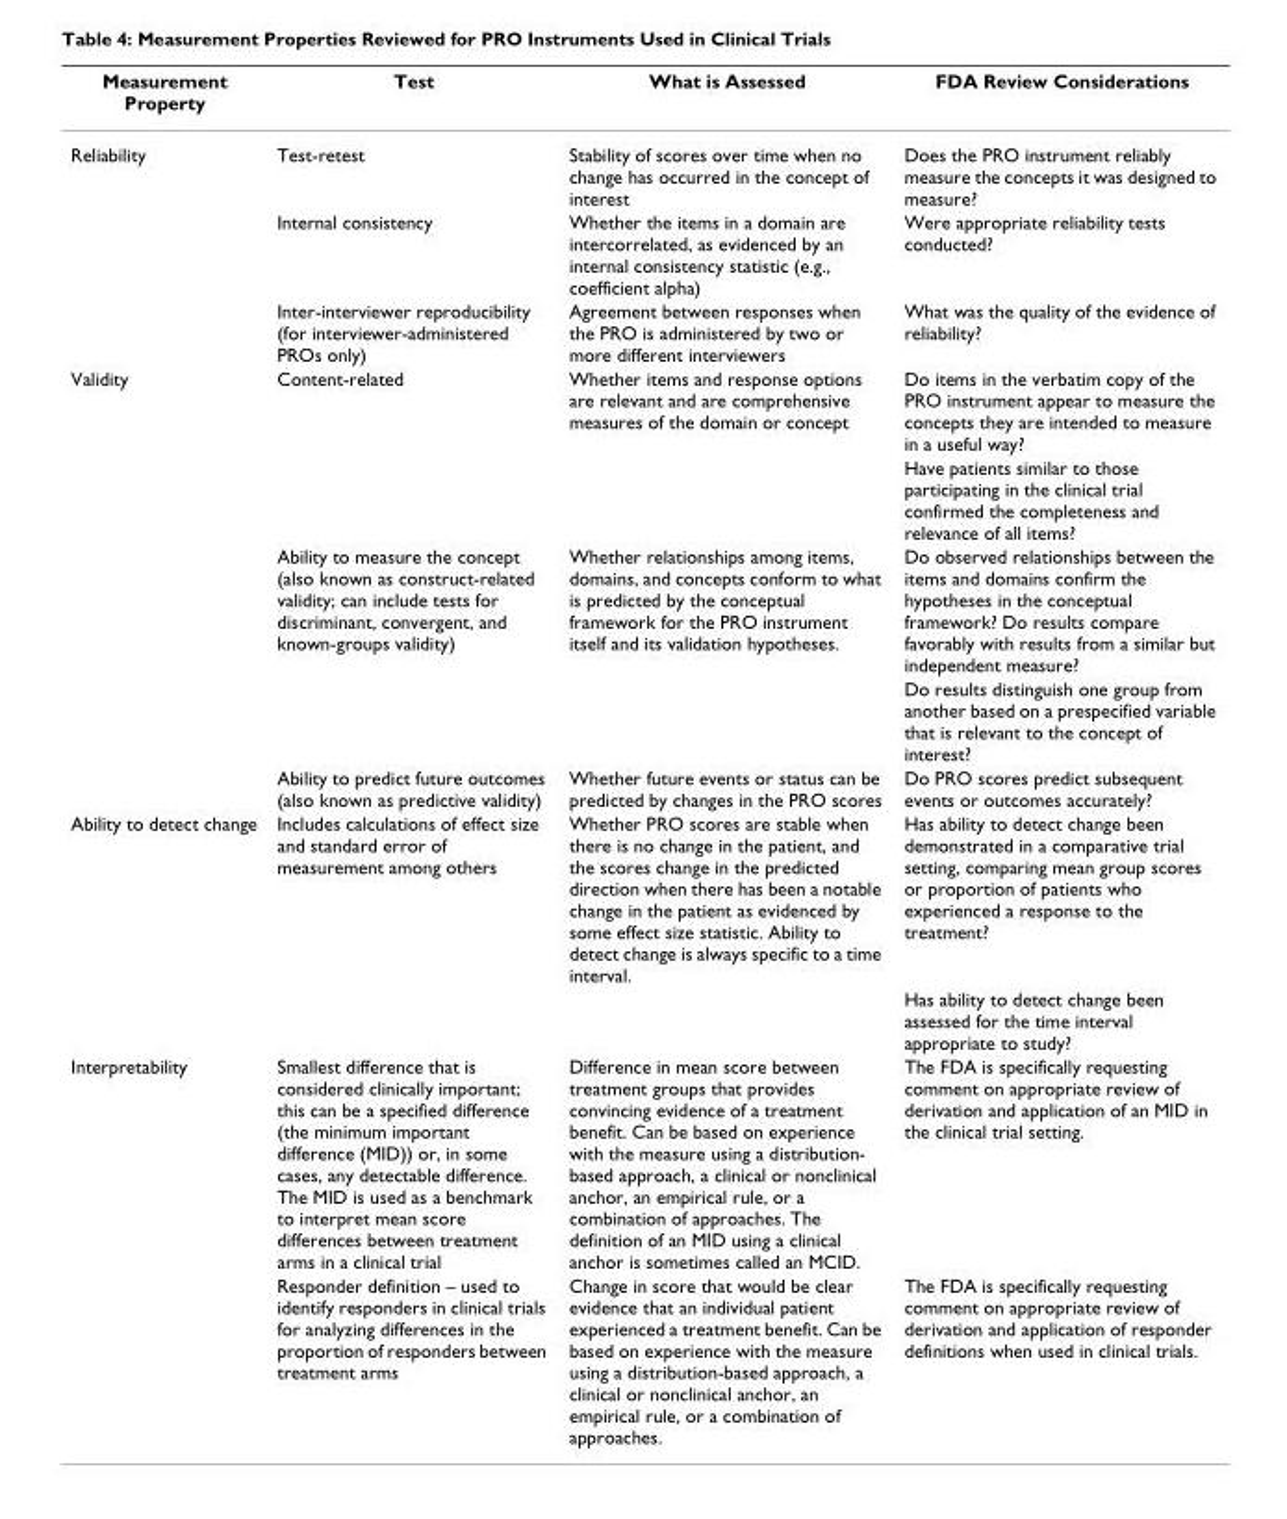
<table><thead><tr><td>Measurement Property</td><td>Test</td><td>What is Assessed</td><td>FDA Review Considerations</td></tr></thead><tbody><tr><td rowspan="3">Reliability</td><td>Test-retest</td><td>Stability of scores over time when no change has occurred in the concept of interest</td><td>Does the PRO instrument reliably measure the concepts it was designed to measure?</td></tr><tr><td>Internal consistency</td><td>Whether the items in a domain are intercorrelated, as evidenced by an internal consistency statistic (e.g., coefficient alpha)</td><td>Were appropriate reliability tests conducted?</td></tr><tr><td>Inter-interviewer reproducibility (for interviewer-administered PROs only)</td><td>Agreement between responses when the PRO is administered by two or more different interviewers</td><td>What was the quality of the evidence of reliability?</td></tr><tr><td rowspan="5">Validity</td><td>Content-related</td><td>Whether items and response options are relevant and are comprehensive measures of the domain or concept</td><td>Do items in the verbatim copy of the PRO instrument appear to measure the concepts they are intended to measure in a useful way?</td></tr><tr><td></td><td></td><td>Have patients similar to those participating in the clinical trial confirmed the completeness and relevance of all items?</td></tr><tr><td>Ability to measure the concept (also known as construct-related validity; can include tests for discriminant, convergent, and known-groups validity)</td><td>Whether relationships among items, domains, and concepts conform to what is predicted by the conceptual framework for the PRO instrument itself and its validation hypotheses.</td><td>Do observed relationships between the items and domains confirm the hypotheses in the conceptual framework? Do results compare favorably with results from a similar but independent measure?</td></tr><tr><td></td><td></td><td>Do results distinguish one group from another based on a prespecified variable that is relevant to the concept of interest?</td></tr><tr><td>Ability to predict future outcomes (also known as predictive validity)</td><td>Whether future events or status can be predicted by changes in the PRO scores</td><td>Do PRO scores predict subsequent events or outcomes accurately?</td></tr><tr><td rowspan="2">Ability to detect change</td><td>Includes calculations of effect size and standard error of measurement among others</td><td>Whether PRO scores are stable when there is no change in the patient, and the scores change in the predicted direction when there has been a notable change in the patient as evidenced by some effect size statistic. Ability to detect change is always specific to a time interval.</td><td>Has ability to detect change been demonstrated in a comparative trial setting, comparing mean group scores or proportion of patients who experienced a response to the treatment?</td></tr><tr><td></td><td></td><td>Has ability to detect change been assessed for the time interval appropriate to study?</td></tr><tr><td rowspan="2">Interpretability</td><td>Smallest difference that is considered clinically important; this can be a specified difference (the minimum important difference (MID)) or, in some cases, any detectable difference. The MID is used as a benchmark to interpret mean score differences between treatment arms in a clinical trial</td><td>Difference in mean score between treatment groups that provides convincing evidence of a treatment benefit. Can be based on experience with the measure using a distribution- based approach, a clinical or nonclinical anchor, an empirical rule, or a combination of approaches. The definition of an MID using a clinical anchor is sometimes called an MCID.</td><td>The FDA is specifically requesting comment on appropriate review of derivation and application of an MID in the clinical trial setting.</td></tr><tr><td>Responder definition – used to identify responders in clinical trials for analyzing differences in the proportion of responders between treatment arms</td><td>Change in score that would be clear evidence that an individual patient experienced a treatment benefit. Can be based on experience with the measure using a distribution-based approach, a clinical or nonclinical anchor, an empirical rule, or a combination of approaches.</td><td>The FDA is specifically requesting comment on appropriate review of derivation and application of responder definitions when used in clinical trials.</td></tr></tbody></table>